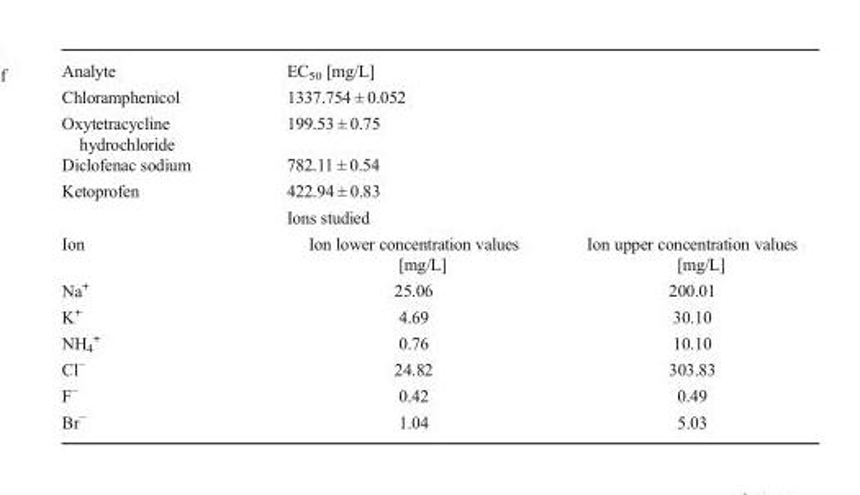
<table><tbody><tr><td>Analyte</td><td colspan="2">EC<sub>50</sub> [mg/L]</td></tr><tr><td>Chloramphenicol</td><td colspan="2">1337.754 ± 0.052</td></tr><tr><td>Oxytetracycline hydrochloride</td><td colspan="2">199.53 ± 0.75</td></tr><tr><td>Diclofenac sodium</td><td colspan="2">782.11 ± 0.54</td></tr><tr><td rowspan="2">Ketoprofen</td><td colspan="2">422.94 ± 0.83</td></tr><tr><td colspan="2">Ions studied</td></tr><tr><td>Ion</td><td>Ion lower concentration values [mg/L]</td><td>Ion upper concentration values [mg/L]</td></tr><tr><td>Na<sup>+</sup></td><td>25.06</td><td>200.01</td></tr><tr><td>K<sup>+</sup></td><td>4.69</td><td>30.10</td></tr><tr><td>NH<sub>4</sub> <sup>+</sup></td><td>0.76</td><td>10.10</td></tr><tr><td>Cl<sup>−</sup></td><td>24.82</td><td>303.83</td></tr><tr><td>F<sup>−</sup></td><td>0.42</td><td>0.49</td></tr><tr><td>Br<sup>−</sup></td><td>1.04</td><td>5.03</td></tr></tbody></table>